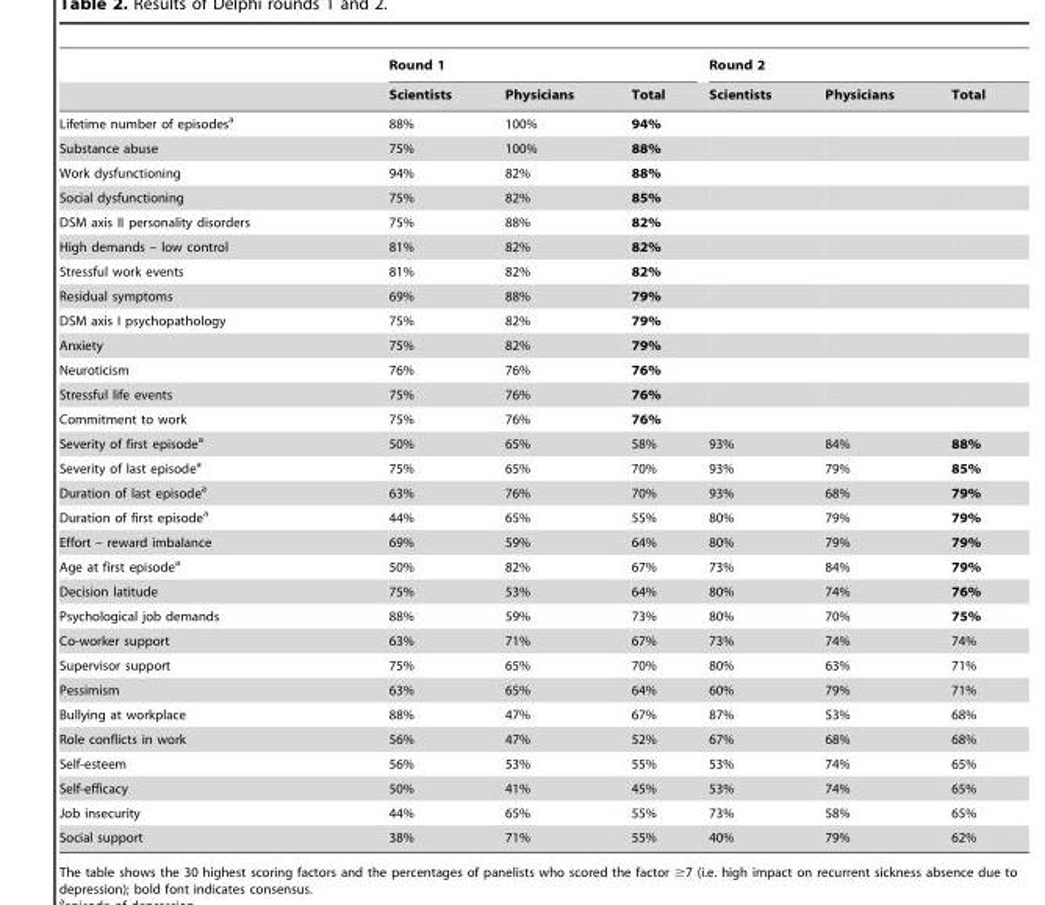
<table><thead><tr><td rowspan="2"></td><td colspan="3">Round 1</td><td colspan="3">Round 2</td></tr><tr><td>Scientists</td><td>Physicians</td><td>Total</td><td>Scientists</td><td>Physicians</td><td>Total</td></tr></thead><tbody><tr><td>Lifetime number of episodes<sup>a</sup></td><td>88%</td><td>100%</td><td>94%</td><td></td><td></td><td></td></tr><tr><td>Substance abuse</td><td>75%</td><td>100%</td><td>88%</td><td></td><td></td><td></td></tr><tr><td>Work dysfunctioning</td><td>94%</td><td>82%</td><td>88%</td><td></td><td></td><td></td></tr><tr><td>Social dysfunctioning</td><td>75%</td><td>82%</td><td>85%</td><td></td><td></td><td></td></tr><tr><td>DSM axis II personality disorders</td><td>75%</td><td>88%</td><td>82%</td><td></td><td></td><td></td></tr><tr><td>High demands – low control</td><td>81%</td><td>82%</td><td>82%</td><td></td><td></td><td></td></tr><tr><td>Stressful work events</td><td>81%</td><td>82%</td><td>82%</td><td></td><td></td><td></td></tr><tr><td>Residual symptoms</td><td>69%</td><td>88%</td><td>79%</td><td></td><td></td><td></td></tr><tr><td>DSM axis I psychopathology</td><td>75%</td><td>82%</td><td>79%</td><td></td><td></td><td></td></tr><tr><td>Anxiety</td><td>75%</td><td>82%</td><td>79%</td><td></td><td></td><td></td></tr><tr><td>Neuroticism</td><td>76%</td><td>76%</td><td>76%</td><td></td><td></td><td></td></tr><tr><td>Stressful life events</td><td>75%</td><td>76%</td><td>76%</td><td></td><td></td><td></td></tr><tr><td>Commitment to work</td><td>75%</td><td>76%</td><td>76%</td><td></td><td></td><td></td></tr><tr><td>Severity of first episode<sup>a</sup></td><td>50%</td><td>65%</td><td>58%</td><td>93%</td><td>84%</td><td>88%</td></tr><tr><td>Severity of last episode<sup>a</sup></td><td>75%</td><td>65%</td><td>70%</td><td>93%</td><td>79%</td><td>85%</td></tr><tr><td>Duration of last episode<sup>a</sup></td><td>63%</td><td>76%</td><td>70%</td><td>93%</td><td>68%</td><td>79%</td></tr><tr><td>Duration of first episode<sup>a</sup></td><td>44%</td><td>65%</td><td>55%</td><td>80%</td><td>79%</td><td>79%</td></tr><tr><td>Effort – reward imbalance</td><td>69%</td><td>59%</td><td>64%</td><td>80%</td><td>79%</td><td>79%</td></tr><tr><td>Age at first episode<sup>a</sup></td><td>50%</td><td>82%</td><td>67%</td><td>73%</td><td>84%</td><td>79%</td></tr><tr><td>Decision latitude</td><td>75%</td><td>53%</td><td>64%</td><td>80%</td><td>74%</td><td>76%</td></tr><tr><td>Psychological job demands</td><td>88%</td><td>59%</td><td>73%</td><td>80%</td><td>70%</td><td>75%</td></tr><tr><td>Co-worker support</td><td>63%</td><td>71%</td><td>67%</td><td>73%</td><td>74%</td><td>74%</td></tr><tr><td>Supervisor support</td><td>75%</td><td>65%</td><td>70%</td><td>80%</td><td>63%</td><td>71%</td></tr><tr><td>Pessimism</td><td>63%</td><td>65%</td><td>64%</td><td>60%</td><td>79%</td><td>71%</td></tr><tr><td>Bullying at workplace</td><td>88%</td><td>47%</td><td>67%</td><td>87%</td><td>53%</td><td>68%</td></tr><tr><td>Role conflicts in work</td><td>56%</td><td>47%</td><td>52%</td><td>67%</td><td>68%</td><td>68%</td></tr><tr><td>Self-esteem</td><td>56%</td><td>53%</td><td>55%</td><td>53%</td><td>74%</td><td>65%</td></tr><tr><td>Self-efficacy</td><td>50%</td><td>41%</td><td>45%</td><td>53%</td><td>74%</td><td>65%</td></tr><tr><td>Job insecurity</td><td>44%</td><td>65%</td><td>55%</td><td>73%</td><td>58%</td><td>65%</td></tr><tr><td>Social support</td><td>38%</td><td>71%</td><td>55%</td><td>40%</td><td>79%</td><td>62%</td></tr></tbody></table>